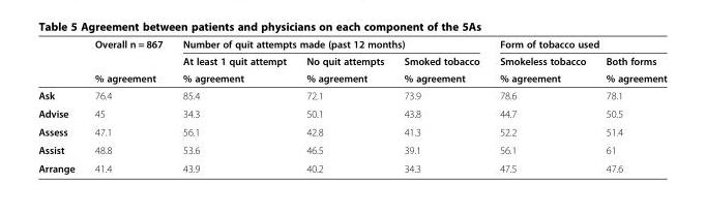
<table><thead><tr><td rowspan="3"></td><td rowspan="3">Overall n = 867 % agreement</td><td colspan="3">Number of quit attempts made (past 12 months)</td><td colspan="2">Form of tobacco used</td></tr><tr><td rowspan="2">At least 1 quit attempt % agreement</td><td rowspan="2">No quit attempts % agreement</td><td rowspan="2">Smoked tobacco % agreement</td><td rowspan="2">Smokeless tobacco % agreement</td><td rowspan="2">Both forms % agreement</td></tr><tr></tr></thead><tbody><tr><td>Ask</td><td>76.4</td><td>85.4</td><td>72.1</td><td>73.9</td><td>78.6</td><td>78.1</td></tr><tr><td>Advise</td><td>45</td><td>34.3</td><td>50.1</td><td>43.8</td><td>44.7</td><td>50.5</td></tr><tr><td>Assess</td><td>47.1</td><td>56.1</td><td>42.8</td><td>41.3</td><td>52.2</td><td>51.4</td></tr><tr><td>Assist</td><td>48.8</td><td>53.6</td><td>46.5</td><td>39.1</td><td>56.1</td><td>61</td></tr><tr><td>Arrange</td><td>41.4</td><td>43.9</td><td>40.2</td><td>34.3</td><td>47.5</td><td>47.6</td></tr></tbody></table>